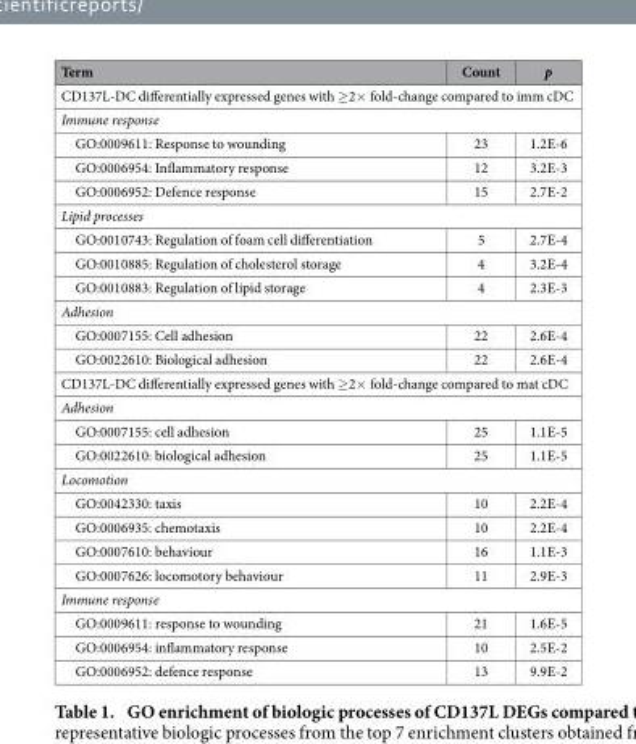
<table><thead><tr><td>Term</td><td>Count</td><td>p</td></tr></thead><tbody><tr><td colspan="3">CD137L-DC differentially expressed genes with ≥ 2× fold-change compared to imm cDC</td></tr><tr><td colspan="3">Immune response</td></tr><tr><td>GO:0009611: Response to wounding</td><td>23</td><td>1.2E-6</td></tr><tr><td>GO:0006954: Inflammatory response</td><td>12</td><td>3.2E-3</td></tr><tr><td>GO:0006952: Defence response</td><td>15</td><td>2.7E-2</td></tr><tr><td colspan="3">Lipid processes</td></tr><tr><td>GO:0010743: Regulation of foam cell differentiation</td><td>5</td><td>2.7E-4</td></tr><tr><td>GO:0010885: Regulation of cholesterol storage</td><td>4</td><td>3.2E-4</td></tr><tr><td>GO:0010883: Regulation of lipid storage</td><td>4</td><td>2.3E-3</td></tr><tr><td colspan="3">Adhesion</td></tr><tr><td>GO:0007155: Cell adhesion</td><td>22</td><td>2.6E-4</td></tr><tr><td>GO:0022610: Biological adhesion</td><td>22</td><td>2.6E-4</td></tr><tr><td colspan="3">CD137L-DC differentially expressed genes with ≥ 2× fold-change compared to mat cDC</td></tr><tr><td colspan="3">Adhesion</td></tr><tr><td>GO:0007155: cell adhesion</td><td>25</td><td>1.1E-5</td></tr><tr><td>GO:0022610: biological adhesion</td><td>25</td><td>1.1E-5</td></tr><tr><td colspan="3">Locomotion</td></tr><tr><td>GO:0042330: taxis</td><td>10</td><td>2.2E-4</td></tr><tr><td>GO:0006935: chemotaxis</td><td>10</td><td>2.2E-4</td></tr><tr><td>GO:0007610: behaviour</td><td>16</td><td>1.1E-3</td></tr><tr><td>GO:0007626: locomotory behaviour</td><td>11</td><td>2.9E-3</td></tr><tr><td colspan="3">Immune response</td></tr><tr><td>GO:0009611: response to wounding</td><td>21</td><td>1.6E-5</td></tr><tr><td>GO:0006954: inflammatory response</td><td>10</td><td>2.5E-2</td></tr><tr><td>GO:0006952: defence response</td><td>13</td><td>9.9E-2</td></tr></tbody></table>